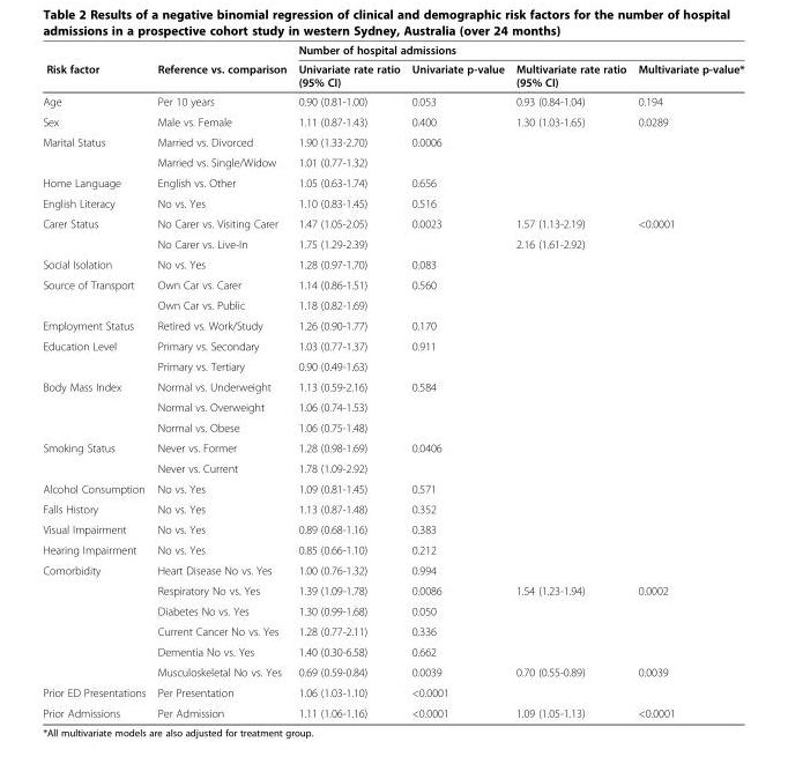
<table><thead><tr><td rowspan="2">Risk factor</td><td rowspan="2">Reference vs. comparison</td><td colspan="4">Number of hospital admissions</td></tr><tr><td>Univariate rate ratio (95% CI)</td><td>Univariate p-value</td><td>Multivariate rate ratio (95% CI)</td><td>Multivariate p-value*</td></tr></thead><tbody><tr><td>Age</td><td>Per 10 years</td><td>0.90 (0.81-1.00)</td><td>0.053</td><td>0.93 (0.84-1.04)</td><td>0.194</td></tr><tr><td>Sex</td><td>Male vs. Female</td><td>1.11 (0.87-1.43)</td><td>0.400</td><td>1.30 (1.03-1.65)</td><td>0.0289</td></tr><tr><td rowspan="2">Marital Status</td><td>Married vs. Divorced</td><td>1.90 (1.33-2.70)</td><td>0.0006</td><td></td><td></td></tr><tr><td>Married vs. Single/Widow</td><td>1.01 (0.77-1.32)</td><td></td><td></td><td></td></tr><tr><td>Home Language</td><td>English vs. Other</td><td>1.05 (0.63-1.74)</td><td>0.656</td><td></td><td></td></tr><tr><td>English Literacy</td><td>No vs. Yes</td><td>1.10 (0.83-1.45)</td><td>0.516</td><td></td><td></td></tr><tr><td rowspan="2">Carer Status</td><td>No Carer vs. Visiting Carer</td><td>1.47 (1.05-2.05)</td><td>0.0023</td><td>1.57 (1.13-2.19)</td><td>&lt;0.0001</td></tr><tr><td>No Carer vs. Live-In</td><td>1.75 (1.29-2.39)</td><td></td><td>2.16 (1.61-2.92)</td><td></td></tr><tr><td>Social Isolation</td><td>No vs. Yes</td><td>1.28 (0.97-1.70)</td><td>0.083</td><td></td><td></td></tr><tr><td rowspan="2">Source of Transport</td><td>Own Car vs. Carer</td><td>1.14 (0.86-1.51)</td><td>0.560</td><td></td><td></td></tr><tr><td>Own Car vs. Public</td><td>1.18 (0.82-1.69)</td><td></td><td></td><td></td></tr><tr><td>Employment Status</td><td>Retired vs. Work/Study</td><td>1.26 (0.90-1.77)</td><td>0.170</td><td></td><td></td></tr><tr><td rowspan="2">Education Level</td><td>Primary vs. Secondary</td><td>1.03 (0.77-1.37)</td><td>0.911</td><td></td><td></td></tr><tr><td>Primary vs. Tertiary</td><td>0.90 (0.49-1.63)</td><td></td><td></td><td></td></tr><tr><td rowspan="3">Body Mass Index</td><td>Normal vs. Underweight</td><td>1.13 (0.59-2.16)</td><td>0.584</td><td></td><td></td></tr><tr><td>Normal vs. Overweight</td><td>1.06 (0.74-1.53)</td><td></td><td></td><td></td></tr><tr><td>Normal vs. Obese</td><td>1.06 (0.75-1.48)</td><td></td><td></td><td></td></tr><tr><td rowspan="2">Smoking Status</td><td>Never vs. Former</td><td>1.28 (0.98-1.69)</td><td>0.0406</td><td></td><td></td></tr><tr><td>Never vs. Current</td><td>1.78 (1.09-2.92)</td><td></td><td></td><td></td></tr><tr><td>Alcohol Consumption</td><td>No vs. Yes</td><td>1.09 (0.81-1.45)</td><td>0.571</td><td></td><td></td></tr><tr><td>Falls History</td><td>No vs. Yes</td><td>1.13 (0.87-1.48)</td><td>0.352</td><td></td><td></td></tr><tr><td>Visual Impairment</td><td>No vs. Yes</td><td>0.89 (0.68-1.16)</td><td>0.383</td><td></td><td></td></tr><tr><td>Hearing Impairment</td><td>No vs. Yes</td><td>0.85 (0.66-1.10)</td><td>0.212</td><td></td><td></td></tr><tr><td rowspan="6">Comorbidity</td><td>Heart Disease No vs. Yes</td><td>1.00 (0.76-1.32)</td><td>0.994</td><td></td><td></td></tr><tr><td>Respiratory No vs. Yes</td><td>1.39 (1.09-1.78)</td><td>0.0086</td><td>1.54 (1.23-1.94)</td><td>0.0002</td></tr><tr><td>Diabetes No vs. Yes</td><td>1.30 (0.99-1.68)</td><td>0.050</td><td></td><td></td></tr><tr><td>Current Cancer No vs. Yes</td><td>1.28 (0.77-2.11)</td><td>0.336</td><td></td><td></td></tr><tr><td>Dementia No vs. Yes</td><td>1.40 (0.30-6.58)</td><td>0.662</td><td></td><td></td></tr><tr><td>Musculoskeletal No vs. Yes</td><td>0.69 (0.59-0.84)</td><td>0.0039</td><td>0.70 (0.55-0.89)</td><td>0.0039</td></tr><tr><td>Prior ED Presentations</td><td>Per Presentation</td><td>1.06 (1.03-1.10)</td><td>&lt;0.0001</td><td></td><td></td></tr><tr><td>Prior Admissions</td><td>Per Admission</td><td>1.11 (1.06-1.16)</td><td>&lt;0.0001</td><td>1.09 (1.05-1.13)</td><td>&lt;0.0001</td></tr></tbody></table>